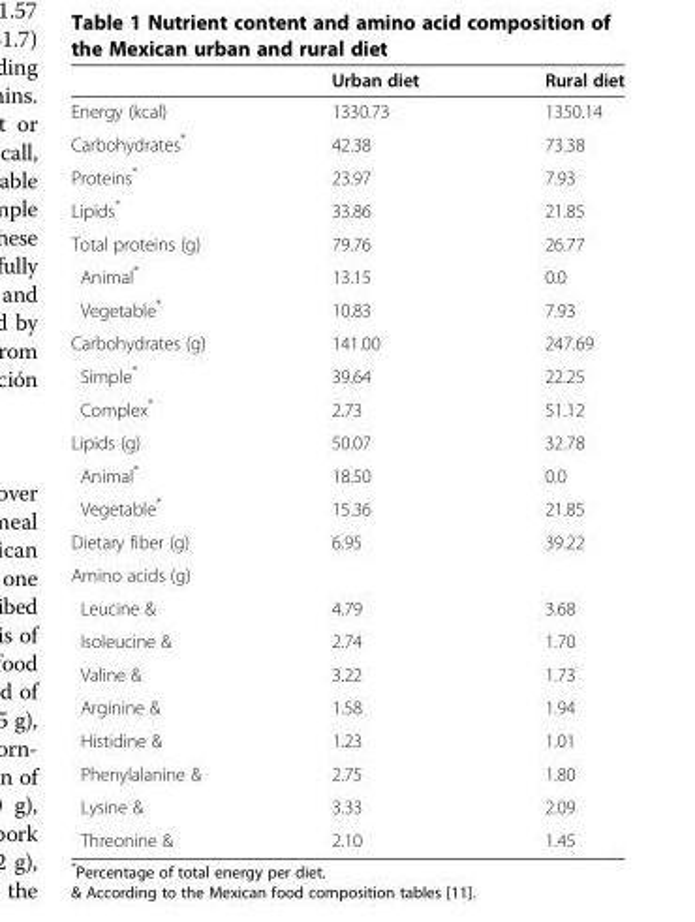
<table><thead><tr><td></td><td>Urban diet</td><td>Rural diet</td></tr></thead><tbody><tr><td>Energy (kcal)</td><td>1330.73</td><td>1350.14</td></tr><tr><td>Carbohydrates*</td><td>42.38</td><td>73.38</td></tr><tr><td>Proteins*</td><td>23.97</td><td>7.93</td></tr><tr><td>Lipids*</td><td>33.86</td><td>21.85</td></tr><tr><td>Total proteins (g)</td><td>79.76</td><td>26.77</td></tr><tr><td>Animal*</td><td>13.15</td><td>0.0</td></tr><tr><td>Vegetable*</td><td>10.83</td><td>7.93</td></tr><tr><td>Carbohydrates (g)</td><td>141.00</td><td>247.69</td></tr><tr><td>Simple*</td><td>39.64</td><td>22.25</td></tr><tr><td>Complex*</td><td>2.73</td><td>51.12</td></tr><tr><td>Lipids (g)</td><td>50.07</td><td>32.78</td></tr><tr><td>Animal*</td><td>18.50</td><td>0.0</td></tr><tr><td>Vegetable*</td><td>15.36</td><td>21.85</td></tr><tr><td>Dietary fiber (g)</td><td>6.95</td><td>39.22</td></tr><tr><td colspan="3">Amino acids (g)</td></tr><tr><td>Leucine &amp;</td><td>4.79</td><td>3.68</td></tr><tr><td>Isoleucine &amp;</td><td>2.74</td><td>1.70</td></tr><tr><td>Valine &amp;</td><td>3.22</td><td>1.73</td></tr><tr><td>Arginine &amp;</td><td>1.58</td><td>1.94</td></tr><tr><td>Histidine &amp;</td><td>1.23</td><td>1.01</td></tr><tr><td>Phenylalanine &amp;</td><td>2.75</td><td>1.80</td></tr><tr><td>Lysine &amp;</td><td>3.33</td><td>2.09</td></tr><tr><td>Threonine &amp;</td><td>2.10</td><td>1.45</td></tr></tbody></table>